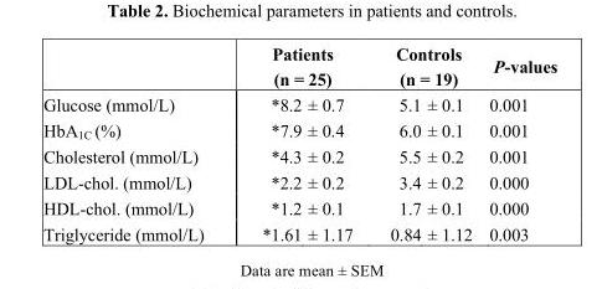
<table><thead><tr><td></td><td>Patients (n = 25)</td><td>Controls (n = 19)</td><td>P-values</td></tr></thead><tbody><tr><td>Glucose (mmol/L)</td><td>*8.2 ± 0.7</td><td>5.1 ± 0.1</td><td>0.001</td></tr><tr><td>HbA<sub>1C</sub> (%)</td><td>*7.9 ± 0.4</td><td>6.0 ± 0.1</td><td>0.001</td></tr><tr><td>Cholesterol (mmol/L)</td><td>*4.3 ± 0.2</td><td>5.5 ± 0.2</td><td>0.001</td></tr><tr><td>LDL-chol. (mmol/L)</td><td>*2.2 ± 0.2</td><td>3.4 ± 0.2</td><td>0.000</td></tr><tr><td>HDL-chol. (mmol/L)</td><td>*1.2 ± 0.1</td><td>1.7 ± 0.1</td><td>0.000</td></tr><tr><td>Triglyceride (mmol/L)</td><td>*1.61 ± 1.17</td><td>0.84 ± 1.12</td><td>0.003</td></tr></tbody></table>